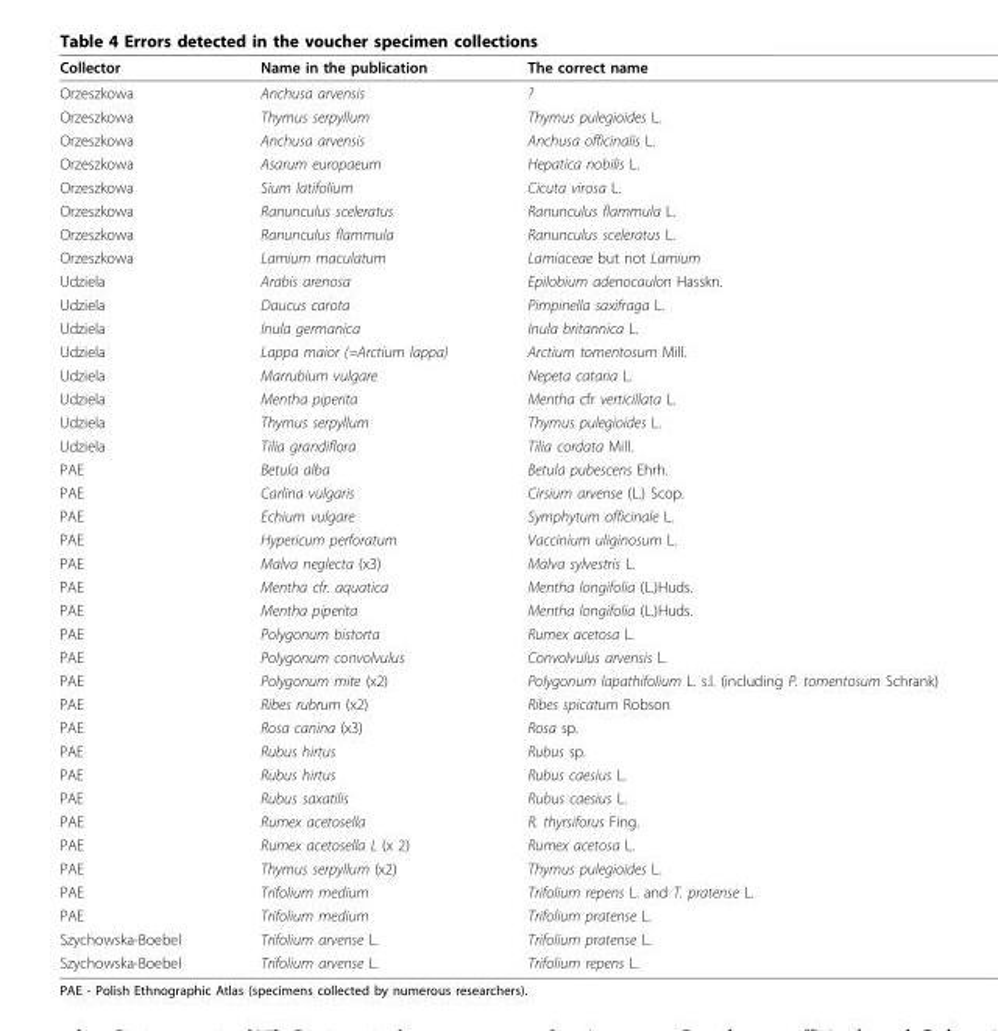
<table><thead><tr><td>Collector</td><td>Name in the publication</td><td>The correct name</td></tr></thead><tbody><tr><td>Orzeszkowa</td><td>Anchusa arvensis</td><td>?</td></tr><tr><td>Orzeszkowa</td><td>Thymus serpyllum</td><td>Thymus pulegioides L.</td></tr><tr><td>Orzeszkowa</td><td>Anchusa arvensis</td><td>Anchusa officinalis L.</td></tr><tr><td>Orzeszkowa</td><td>Asarum europaeum</td><td>Hepatica nobilis L.</td></tr><tr><td>Orzeszkowa</td><td>Sium latifolium</td><td>Cicuta virosa L.</td></tr><tr><td>Orzeszkowa</td><td>Ranunculus sceleratus</td><td>Ranunculus flammula L.</td></tr><tr><td>Orzeszkowa</td><td>Ranunculus flammula</td><td>Ranunculus sceleratus L.</td></tr><tr><td>Orzeszkowa</td><td>Lamium maculatum</td><td>Lamiaceae but not Lamium</td></tr><tr><td>Udziela</td><td>Arabis arenosa</td><td>Epilobium adenocaulon Hasskn.</td></tr><tr><td>Udziela</td><td>Daucus carota</td><td>Pimpinella saxifraga L.</td></tr><tr><td>Udziela</td><td>Inula germanica</td><td>Inula britannica L.</td></tr><tr><td>Udziela</td><td>Lappa maior (=Arctium lappa)</td><td>Arctium tomentosum Mill.</td></tr><tr><td>Udziela</td><td>Marrubium vulgare</td><td>Nepeta cataria L.</td></tr><tr><td>Udziela</td><td>Mentha piperita</td><td>Mentha cfr verticillata L.</td></tr><tr><td>Udziela</td><td>Thymus serpyllum</td><td>Thymus pulegioides L.</td></tr><tr><td>Udziela</td><td>Tilia grandiflora</td><td>Tilia cordata Mill.</td></tr><tr><td>PAE</td><td>Betula alba</td><td>Betula pubescens Ehrh.</td></tr><tr><td>PAE</td><td>Carlina vulgaris</td><td>Cirsium arvense (L.) Scop.</td></tr><tr><td>PAE</td><td>Echium vulgare</td><td>Symphytum officinale L.</td></tr><tr><td>PAE</td><td>Hypericum perforatum</td><td>Vaccinium uliginosum L.</td></tr><tr><td>PAE</td><td>Malva neglecta (x3)</td><td>Malva sylvestris L.</td></tr><tr><td>PAE</td><td>Mentha cfr. aquatica</td><td>Mentha longifolia (L.)Huds.</td></tr><tr><td>PAE</td><td>Mentha piperita</td><td>Mentha longifolia (L.)Huds.</td></tr><tr><td>PAE</td><td>Polygonum bistorta</td><td>Rumex acetosa L.</td></tr><tr><td>PAE</td><td>Polygonum convolvulus</td><td>Convolvulus arvensis L.</td></tr><tr><td>PAE</td><td>Polygonum mite (x2)</td><td>Polygonum lapathifolium L. s.l. (including P. tomentosum Schrank)</td></tr><tr><td>PAE</td><td>Ribes rubrum (x2)</td><td>Ribes spicatum Robson</td></tr><tr><td>PAE</td><td>Rosa canina (x3)</td><td>Rosa sp.</td></tr><tr><td>PAE</td><td>Rubus hirtus</td><td>Rubus sp.</td></tr><tr><td>PAE</td><td>Rubus hirtus</td><td>Rubus caesius L.</td></tr><tr><td>PAE</td><td>Rubus saxatilis</td><td>Rubus caesius L.</td></tr><tr><td>PAE</td><td>Rumex acetosella</td><td>R. thyrsiforus Fing.</td></tr><tr><td>PAE</td><td>Rumex acetosella L (x 2)</td><td>Rumex acetosa L.</td></tr><tr><td>PAE</td><td>Thymus serpyllum (x2)</td><td>Thymus pulegioides L.</td></tr><tr><td>PAE</td><td>Trifolium medium</td><td>Trifolium repens L. and T. pratense L.</td></tr><tr><td>PAE</td><td>Trifolium medium</td><td>Trifolium pratense L.</td></tr><tr><td>Szychowska-Boebel</td><td>Trifolium arvense L.</td><td>Trifolium pratense L.</td></tr><tr><td>Szychowska-Boebel</td><td>Trifolium arvense L.</td><td>Trifolium repens L.</td></tr></tbody></table>